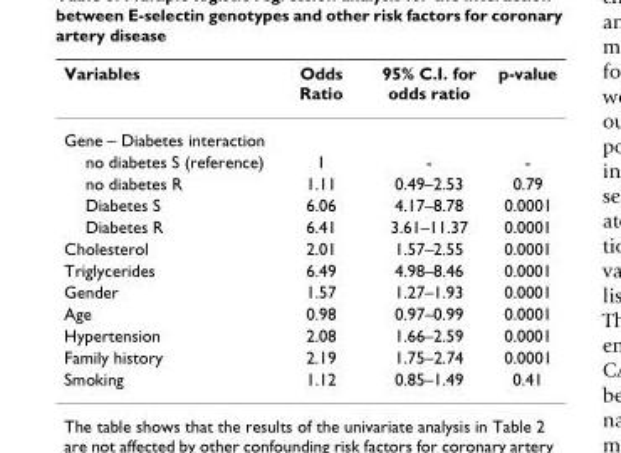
<table><thead><tr><td>Variables</td><td>Odds Ratio</td><td>95% C.I. for odds ratio</td><td>p-value</td></tr></thead><tbody><tr><td colspan="4">Gene – Diabetes interaction</td></tr><tr><td>no diabetes S (reference)</td><td>1</td><td>-</td><td>-</td></tr><tr><td>no diabetes R</td><td>1.11</td><td>0.49–2.53</td><td>0.79</td></tr><tr><td>Diabetes S</td><td>6.06</td><td>4.17–8.78</td><td>0.0001</td></tr><tr><td>Diabetes R</td><td>6.41</td><td>3.61–11.37</td><td>0.0001</td></tr><tr><td>Cholesterol</td><td>2.01</td><td>1.57–2.55</td><td>0.0001</td></tr><tr><td>Triglycerides</td><td>6.49</td><td>4.98–8.46</td><td>0.0001</td></tr><tr><td>Gender</td><td>1.57</td><td>1.27–1.93</td><td>0.0001</td></tr><tr><td>Age</td><td>0.98</td><td>0.97–0.99</td><td>0.0001</td></tr><tr><td>Hypertension</td><td>2.08</td><td>1.66–2.59</td><td>0.0001</td></tr><tr><td>Family history</td><td>2.19</td><td>1.75–2.74</td><td>0.0001</td></tr><tr><td>Smoking</td><td>1.12</td><td>0.85–1.49</td><td>0.41</td></tr></tbody></table>